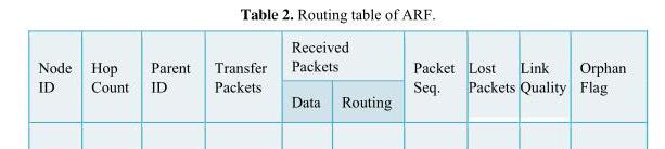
<table><thead><tr><td rowspan="2">Node ID</td><td rowspan="2">Hop Count</td><td rowspan="2">Parent ID</td><td rowspan="2">Transfer Packets</td><td colspan="2">Received Packets</td><td rowspan="2">Packet Seq.</td><td rowspan="2">Lost Packets</td><td rowspan="2">Link Quality</td><td rowspan="2">Orphan Flag</td></tr><tr><td>Data</td><td>Routing</td></tr></thead><tbody></tbody></table>